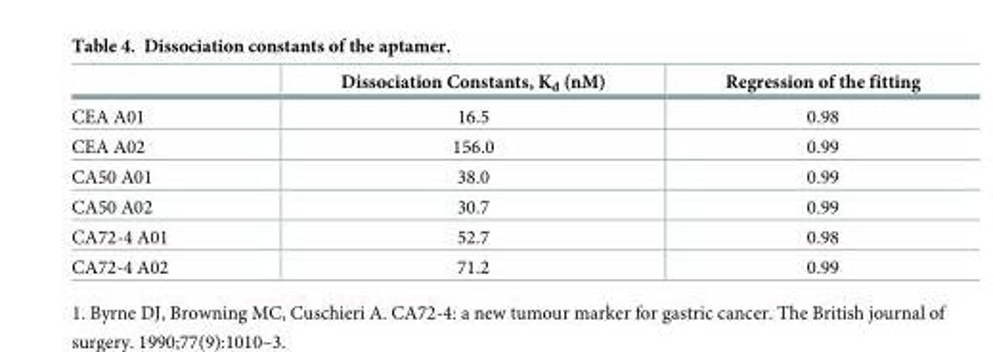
<table><thead><tr><td></td><td>Dissociation Constants, K<sub>d</sub> (nM)</td><td>Regression of the fitting</td></tr></thead><tbody><tr><td>CEA A01</td><td>16.5</td><td>0.98</td></tr><tr><td>CEA A02</td><td>156.0</td><td>0.99</td></tr><tr><td>CA50 A01</td><td>38.0</td><td>0.99</td></tr><tr><td>CA50 A02</td><td>30.7</td><td>0.99</td></tr><tr><td>CA72-4 A01</td><td>52.7</td><td>0.98</td></tr><tr><td>CA72-4 A02</td><td>71.2</td><td>0.99</td></tr></tbody></table>